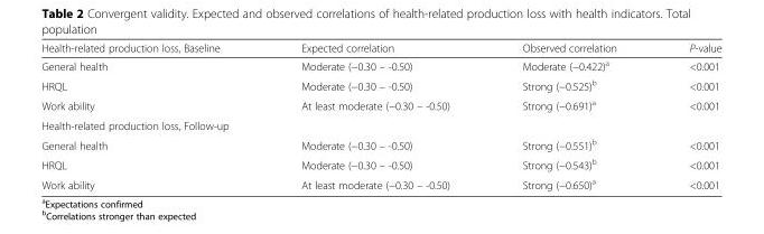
<table><thead><tr><td>Health-related production loss, Baseline</td><td>Expected correlation</td><td>Observed correlation</td><td>P-value</td></tr></thead><tbody><tr><td>General health</td><td>Moderate (−0.30 – -0.50)</td><td>Moderate (−0.422)<sup>a</sup></td><td>&lt;0.001</td></tr><tr><td>HRQL</td><td>Moderate (−0.30 – -0.50)</td><td>Strong (−0.525)<sup>b</sup></td><td>&lt;0.001</td></tr><tr><td>Work ability</td><td>At least moderate (−0.30 – -0.50)</td><td>Strong (−0.691)<sup>a</sup></td><td>&lt;0.001</td></tr><tr><td colspan="4">Health-related production loss, Follow-up</td></tr><tr><td>General health</td><td>Moderate (−0.30 – -0.50)</td><td>Strong (−0.551)<sup>b</sup></td><td>&lt;0.001</td></tr><tr><td>HRQL</td><td>Moderate (−0.30 – -0.50)</td><td>Strong (−0.543)<sup>b</sup></td><td>&lt;0.001</td></tr><tr><td>Work ability</td><td>At least moderate (−0.30 – -0.50)</td><td>Strong (−0.650)<sup>a</sup></td><td>&lt;0.001</td></tr></tbody></table>